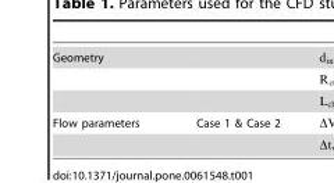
<table><tbody><tr><td colspan="2">Geometry</td></tr><tr><td>Flow parameters</td><td>Case 1 &amp; Case 2</td></tr></tbody></table>